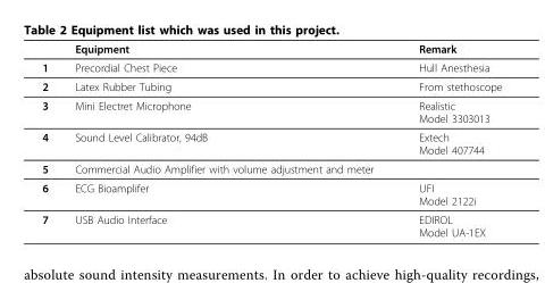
<table><thead><tr><td></td><td>Equipment</td><td>Remark</td></tr></thead><tbody><tr><td>1</td><td>Precordial Chest Piece</td><td>Hull Anesthesia</td></tr><tr><td>2</td><td>Latex Rubber Tubing</td><td>From stethoscope</td></tr><tr><td>3</td><td>Mini Electret Microphone</td><td>Realistic Model 3303013</td></tr><tr><td>4</td><td>Sound Level Calibrator, 94dB</td><td>Extech Model 407744</td></tr><tr><td>5</td><td>Commercial Audio Amplifier with volume adjustment and meter</td><td></td></tr><tr><td>6</td><td>ECG Bioamplifer</td><td>UFI Model 2122i</td></tr><tr><td>7</td><td>USB Audio Interface</td><td>EDIROL Model UA-1EX</td></tr></tbody></table>